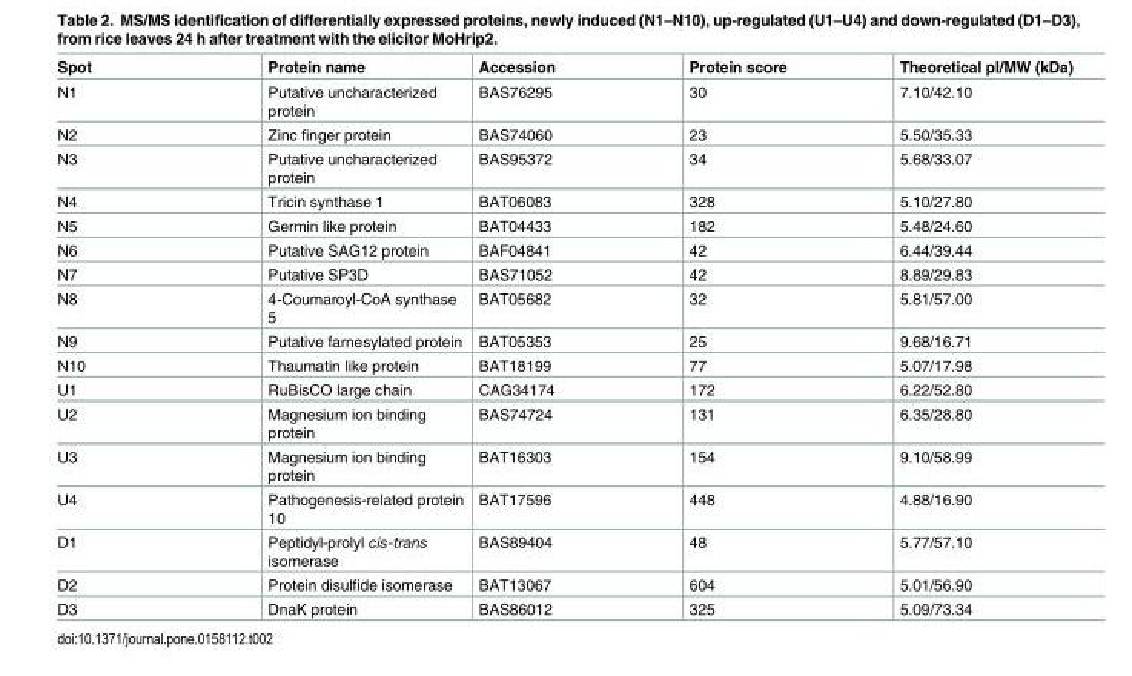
<table><thead><tr><td>Spot</td><td>Protein name</td><td>Accession</td><td>Protein score</td><td>Theoretical pI/MW (kDa)</td></tr></thead><tbody><tr><td>N1</td><td>Putative uncharacterized protein</td><td>BAS76295</td><td>30</td><td>7.10/42.10</td></tr><tr><td>N2</td><td>Zinc finger protein</td><td>BAS74060</td><td>23</td><td>5.50/35.33</td></tr><tr><td>N3</td><td>Putative uncharacterized protein</td><td>BAS95372</td><td>34</td><td>5.68/33.07</td></tr><tr><td>N4</td><td>Tricin synthase 1</td><td>BAT06083</td><td>328</td><td>5.10/27.80</td></tr><tr><td>N5</td><td>Germin like protein</td><td>BAT04433</td><td>182</td><td>5.48/24.60</td></tr><tr><td>N6</td><td>Putative SAG12 protein</td><td>BAF04841</td><td>42</td><td>6.44/39.44</td></tr><tr><td>N7</td><td>Putative SP3D</td><td>BAS71052</td><td>42</td><td>8.89/29.83</td></tr><tr><td>N8</td><td>4-Coumaroyl-CoA synthase 5</td><td>BAT05682</td><td>32</td><td>5.81/57.00</td></tr><tr><td>N9</td><td>Putative farnesylated protein</td><td>BAT05353</td><td>25</td><td>9.68/16.71</td></tr><tr><td>N10</td><td>Thaumatin like protein</td><td>BAT18199</td><td>77</td><td>5.07/17.98</td></tr><tr><td>U1</td><td>RuBisCO large chain</td><td>CAG34174</td><td>172</td><td>6.22/52.80</td></tr><tr><td>U2</td><td>Magnesium ion binding protein</td><td>BAS74724</td><td>131</td><td>6.35/28.80</td></tr><tr><td>U3</td><td>Magnesium ion binding protein</td><td>BAT16303</td><td>154</td><td>9.10/58.99</td></tr><tr><td>U4</td><td>Pathogenesis-related protein 10</td><td>BAT17596</td><td>448</td><td>4.88/16.90</td></tr><tr><td>D1</td><td>Peptidyl-prolyl cis-trans isomerase</td><td>BAS89404</td><td>48</td><td>5.77/57.10</td></tr><tr><td>D2</td><td>Protein disulfide isomerase</td><td>BAT13067</td><td>604</td><td>5.01/56.90</td></tr><tr><td>D3</td><td>DnaK protein</td><td>BAS86012</td><td>325</td><td>5.09/73.34</td></tr></tbody></table>